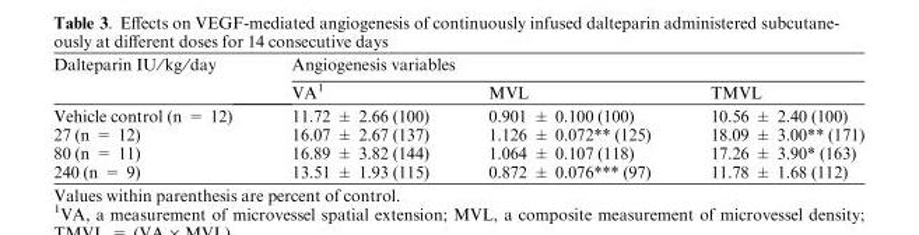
<table><thead><tr><td rowspan="2">Dalteparin IU⁄ kg ⁄ day</td><td colspan="3">Angiogenesis variables</td></tr><tr><td>VA<sup>1</sup></td><td>MVL</td><td>TMVL</td></tr></thead><tbody><tr><td>Vehicle control (n = 12)</td><td>11.72 ± 2.66 (100)</td><td>0.901 ± 0.100 (100)</td><td>10.56 ± 2.40 (100)</td></tr><tr><td>27 (n = 12)</td><td>16.07 ± 2.67 (137)</td><td>1.126 ± 0.072** (125)</td><td>18.09 ± 3.00** (171)</td></tr><tr><td>80 (n = 11)</td><td>16.89 ± 3.82 (144)</td><td>1.064 ± 0.107 (118)</td><td>17.26 ± 3.90* (163)</td></tr><tr><td>240 (n = 9)</td><td>13.51 ± 1.93 (115)</td><td>0.872 ± 0.076*** (97)</td><td>11.78 ± 1.68 (112)</td></tr></tbody></table>